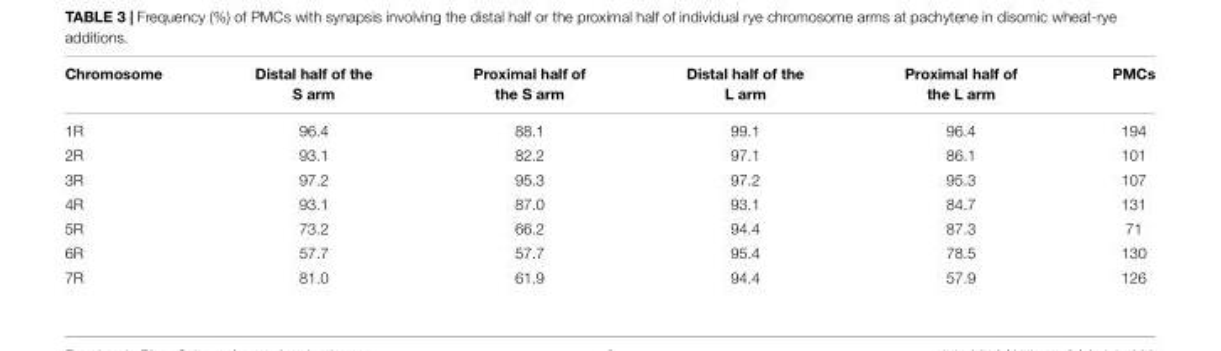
<table><thead><tr><td>Chromosome</td><td>Distal half of the S arm</td><td>Proximal half of the S arm</td><td>Distal half of the L arm</td><td>Proximal half of the L arm</td><td>PMCs</td></tr></thead><tbody><tr><td>1R</td><td>96.4</td><td>88.1</td><td>99.1</td><td>96.4</td><td>194</td></tr><tr><td>2R</td><td>93.1</td><td>82.2</td><td>97.1</td><td>86.1</td><td>101</td></tr><tr><td>3R</td><td>97.2</td><td>95.3</td><td>97.2</td><td>95.3</td><td>107</td></tr><tr><td>4R</td><td>93.1</td><td>87.0</td><td>93.1</td><td>84.7</td><td>131</td></tr><tr><td>5R</td><td>73.2</td><td>66.2</td><td>94.4</td><td>87.3</td><td>71</td></tr><tr><td>6R</td><td>57.7</td><td>57.7</td><td>95.4</td><td>78.5</td><td>130</td></tr><tr><td>7R</td><td>81.0</td><td>61.9</td><td>94.4</td><td>57.9</td><td>126</td></tr></tbody></table>